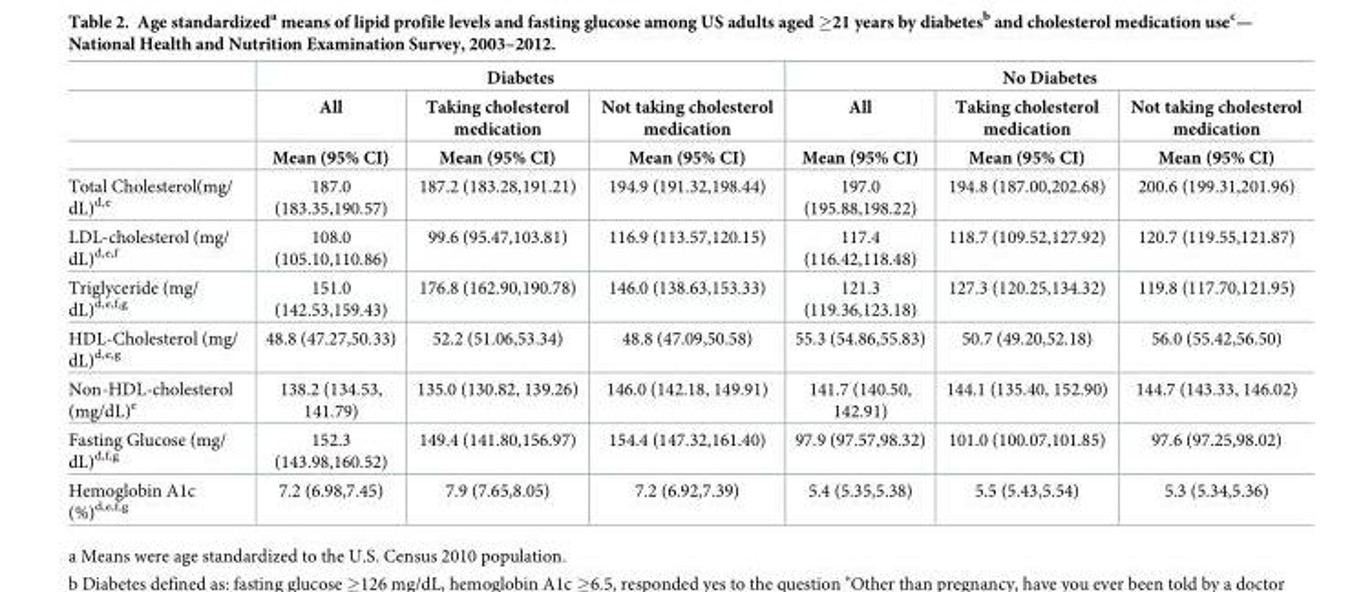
<table><thead><tr><td rowspan="3"></td><td colspan="3">Diabetes</td><td colspan="3">No Diabetes</td></tr><tr><td rowspan="2">All Mean (95% CI)</td><td rowspan="2">Taking cholesterol medication Mean (95% CI)</td><td rowspan="2">Not taking cholesterol medication Mean (95% CI)</td><td rowspan="2">All Mean (95% CI)</td><td rowspan="2">Taking cholesterol medication Mean (95% CI)</td><td rowspan="2">Not taking cholesterol medication Mean (95% CI)</td></tr><tr></tr></thead><tbody><tr><td>Total Cholesterol(mg/ dL)<sup>d,e</sup></td><td>187.0 (183.35,190.57)</td><td>187.2 (183.28,191.21)</td><td>194.9 (191.32,198.44)</td><td>197.0 (195.88,198.22)</td><td>194.8 (187.00,202.68)</td><td>200.6 (199.31,201.96)</td></tr><tr><td>LDL-cholesterol (mg/ dL)<sup>d,e,f</sup></td><td>108.0 (105.10,110.86)</td><td>99.6 (95.47,103.81)</td><td>116.9 (113.57,120.15)</td><td>117.4 (116.42,118.48)</td><td>118.7 (109.52,127.92)</td><td>120.7 (119.55,121.87)</td></tr><tr><td>Triglyceride (mg/ dL)<sup>d,e,f,g</sup></td><td>151.0 (142.53,159.43)</td><td>176.8 (162.90,190.78)</td><td>146.0 (138.63,153.33)</td><td>121.3 (119.36,123.18)</td><td>127.3 (120.25,134.32)</td><td>119.8 (117.70,121.95)</td></tr><tr><td>HDL-Cholesterol (mg/ dL)<sup>d,e,g</sup></td><td>48.8 (47.27,50.33)</td><td>52.2 (51.06,53.34)</td><td>48.8 (47.09,50.58)</td><td>55.3 (54.86,55.83)</td><td>50.7 (49.20,52.18)</td><td>56.0 (55.42,56.50)</td></tr><tr><td>Non-HDL-cholesterol (mg/dL)<sup>e</sup></td><td>138.2 (134.53, 141.79)</td><td>135.0 (130.82, 139.26)</td><td>146.0 (142.18, 149.91)</td><td>141.7 (140.50, 142.91)</td><td>144.1 (135.40, 152.90)</td><td>144.7 (143.33, 146.02)</td></tr><tr><td>Fasting Glucose (mg/ dL)<sup>d,f,g</sup></td><td>152.3 (143.98,160.52)</td><td>149.4 (141.80,156.97)</td><td>154.4 (147.32,161.40)</td><td>97.9 (97.57,98.32)</td><td>101.0 (100.07,101.85)</td><td>97.6 (97.25,98.02)</td></tr><tr><td>Hemoglobin A1c (%)<sup>d,e,f,g</sup></td><td>7.2 (6.98,7.45)</td><td>7.9 (7.65,8.05)</td><td>7.2 (6.92,7.39)</td><td>5.4 (5.35,5.38)</td><td>5.5 (5.43,5.54)</td><td>5.3 (5.34,5.36)</td></tr></tbody></table>